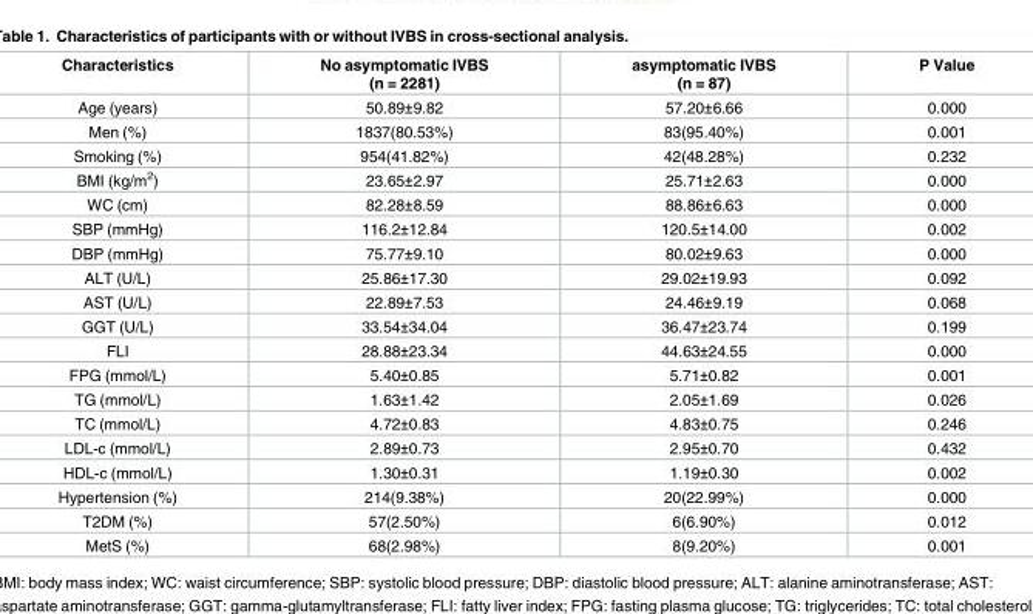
<table><thead><tr><td>Characteristics</td><td>No asymptomatic IVBS (n = 2281)</td><td>asymptomatic IVBS (n = 87)</td><td>P Value</td></tr></thead><tbody><tr><td>Age (years)</td><td>50.89±9.82</td><td>57.20±6.66</td><td>0.000</td></tr><tr><td>Men (%)</td><td>1837(80.53%)</td><td>83(95.40%)</td><td>0.001</td></tr><tr><td>Smoking (%)</td><td>954(41.82%)</td><td>42(48.28%)</td><td>0.232</td></tr><tr><td>BMI (kg/m<sup>2</sup>)</td><td>23.65±2.97</td><td>25.71±2.63</td><td>0.000</td></tr><tr><td>WC (cm)</td><td>82.28±8.59</td><td>88.86±6.63</td><td>0.000</td></tr><tr><td>SBP (mmHg)</td><td>116.2±12.84</td><td>120.5±14.00</td><td>0.002</td></tr><tr><td>DBP (mmHg)</td><td>75.77±9.10</td><td>80.02±9.63</td><td>0.000</td></tr><tr><td>ALT (U/L)</td><td>25.86±17.30</td><td>29.02±19.93</td><td>0.092</td></tr><tr><td>AST (U/L)</td><td>22.89±7.53</td><td>24.46±9.19</td><td>0.068</td></tr><tr><td>GGT (U/L)</td><td>33.54±34.04</td><td>36.47±23.74</td><td>0.199</td></tr><tr><td>FLI</td><td>28.88±23.34</td><td>44.63±24.55</td><td>0.000</td></tr><tr><td>FPG (mmol/L)</td><td>5.40±0.85</td><td>5.71±0.82</td><td>0.001</td></tr><tr><td>TG (mmol/L)</td><td>1.63±1.42</td><td>2.05±1.69</td><td>0.026</td></tr><tr><td>TC (mmol/L)</td><td>4.72±0.83</td><td>4.83±0.75</td><td>0.246</td></tr><tr><td>LDL-c (mmol/L)</td><td>2.89±0.73</td><td>2.95±0.70</td><td>0.432</td></tr><tr><td>HDL-c (mmol/L)</td><td>1.30±0.31</td><td>1.19±0.30</td><td>0.002</td></tr><tr><td>Hypertension (%)</td><td>214(9.38%)</td><td>20(22.99%)</td><td>0.000</td></tr><tr><td>T2DM (%)</td><td>57(2.50%)</td><td>6(6.90%)</td><td>0.012</td></tr><tr><td>MetS (%)</td><td>68(2.98%)</td><td>8(9.20%)</td><td>0.001</td></tr></tbody></table>